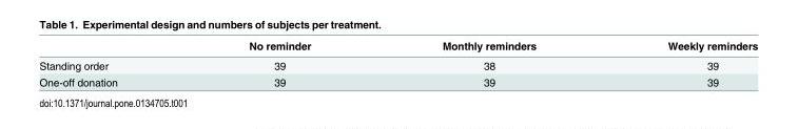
<table><thead><tr><td></td><td>No reminder</td><td>Monthly reminders</td><td>Weekly reminders</td></tr></thead><tbody><tr><td>Standing order</td><td>39</td><td>38</td><td>39</td></tr><tr><td>One-off donation</td><td>39</td><td>39</td><td>39</td></tr></tbody></table>